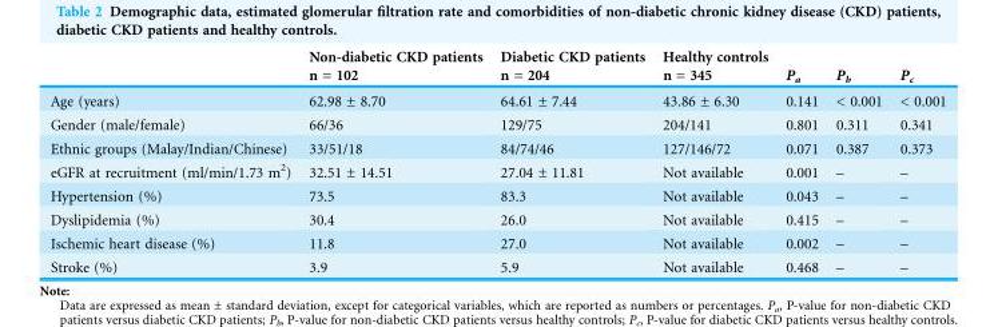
<table><thead><tr><td rowspan="2"></td><td rowspan="2">Non-diabetic CKD patients n = 102</td><td rowspan="2">Diabetic CKD patients n = 204</td><td rowspan="2">Healthy controls n = 345</td><td rowspan="2">P<sub>a</sub></td><td rowspan="2">P<sub>b</sub></td><td rowspan="2">P<sub>c</sub></td></tr><tr></tr></thead><tbody><tr><td>Age (years)</td><td>62.98 ± 8.70</td><td>64.61 ± 7.44</td><td>43.86 ± 6.30</td><td>0.141</td><td>&lt; 0.001</td><td>&lt; 0.001</td></tr><tr><td>Gender (male/female)</td><td>66/36</td><td>129/75</td><td>204/141</td><td>0.801</td><td>0.311</td><td>0.341</td></tr><tr><td>Ethnic groups (Malay/Indian/Chinese)</td><td>33/51/18</td><td>84/74/46</td><td>127/146/72</td><td>0.071</td><td>0.387</td><td>0.373</td></tr><tr><td>eGFR at recruitment (ml/min/1.73 m<sup>2</sup>)</td><td>32.51 ± 14.51</td><td>27.04 ± 11.81</td><td>Not available</td><td>0.001</td><td>–</td><td>–</td></tr><tr><td>Hypertension (%)</td><td>73.5</td><td>83.3</td><td>Not available</td><td>0.043</td><td>–</td><td>–</td></tr><tr><td>Dyslipidemia (%)</td><td>30.4</td><td>26.0</td><td>Not available</td><td>0.415</td><td>–</td><td>–</td></tr><tr><td>Ischemic heart disease (%)</td><td>11.8</td><td>27.0</td><td>Not available</td><td>0.002</td><td>–</td><td>–</td></tr><tr><td>Stroke (%)</td><td>3.9</td><td>5.9</td><td>Not available</td><td>0.468</td><td>–</td><td>–</td></tr></tbody></table>